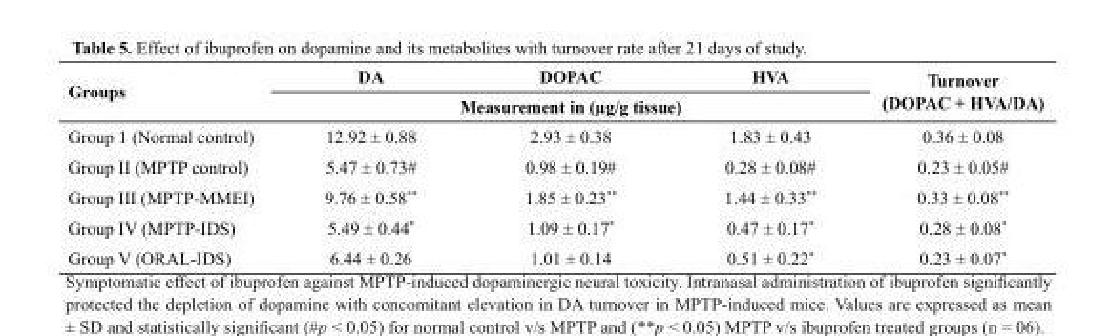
<table><thead><tr><td rowspan="2">Groups</td><td>DA</td><td>DOPAC</td><td>HVA</td><td rowspan="2">Turnover (DOPAC + HVA/DA)</td></tr><tr><td colspan="3">Measurement in (μg/g tissue)</td></tr></thead><tbody><tr><td>Group 1 (Normal control)</td><td>12.92 ± 0.88</td><td>2.93 ± 0.38</td><td>1.83 ± 0.43</td><td>0.36 ± 0.08</td></tr><tr><td>Group II (MPTP control)</td><td>5.47 ± 0.73<sup>#</sup></td><td>0.98 ± 0.19<sup>#</sup></td><td>0.28 ± 0.08<sup>#</sup></td><td>0.23 ± 0.05<sup>#</sup></td></tr><tr><td>Group III (MPTP-MMEI)</td><td>9.76 ± 0.58**</td><td>1.85 ± 0.23**</td><td>1.44 ± 0.33**</td><td>0.33 ± 0.08**</td></tr><tr><td>Group IV (MPTP-IDS)</td><td>5.49 ± 0.44*</td><td>1.09 ± 0.17*</td><td>0.47 ± 0.17*</td><td>0.28 ± 0.08*</td></tr><tr><td>Group V (ORAL-IDS)</td><td>6.44 ± 0.26</td><td>1.01 ± 0.14</td><td>0.51 ± 0.22*</td><td>0.23 ± 0.07*</td></tr></tbody></table>